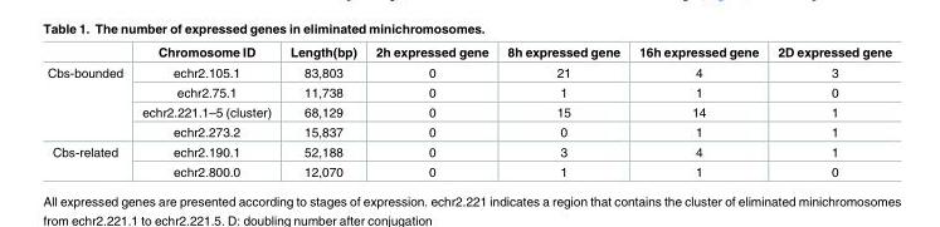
<table><thead><tr><td></td><td>Chromosome ID</td><td>Length(bp)</td><td>2h expressed gene</td><td>8h expressed gene</td><td>16h expressed gene</td><td>2D expressed gene</td></tr></thead><tbody><tr><td rowspan="4">Cbs-bounded</td><td>echr2.105.1</td><td>83,803</td><td>0</td><td>21</td><td>4</td><td>3</td></tr><tr><td>echr2.75.1</td><td>11,738</td><td>0</td><td>1</td><td>1</td><td>0</td></tr><tr><td>echr2.221.1–5 (cluster)</td><td>68,129</td><td>0</td><td>15</td><td>14</td><td>1</td></tr><tr><td>echr2.273.2</td><td>15,837</td><td>0</td><td>0</td><td>1</td><td>1</td></tr><tr><td rowspan="2">Cbs-related</td><td>echr2.190.1</td><td>52,188</td><td>0</td><td>3</td><td>4</td><td>1</td></tr><tr><td>echr2.800.0</td><td>12,070</td><td>0</td><td>1</td><td>1</td><td>0</td></tr></tbody></table>